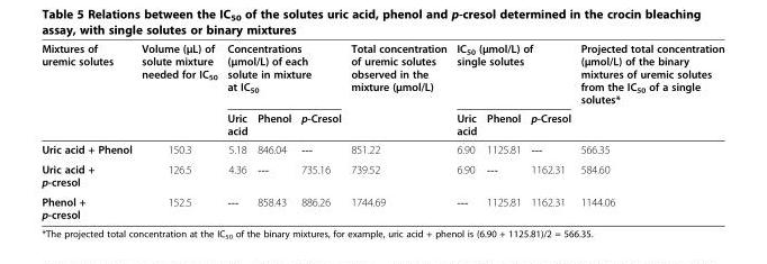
<table><thead><tr><td rowspan="2">Mixtures of uremic solutes</td><td rowspan="2">Volume (μL) of solute mixture needed for IC<sub>50</sub></td><td colspan="3">Concentrations (μmol/L) of each solute in mixture at IC<sub>50</sub></td><td rowspan="2">Total concentration of uremic solutes observed in the mixture (μmol/L)</td><td colspan="3">IC<sub>50</sub> (μmol/L) of single solutes</td><td rowspan="2">Projected total concentration (μmol/L) of the binary mixtures of uremic solutes from the IC<sub>50</sub> of a single solutes*</td></tr><tr><td>Uric acid</td><td>Phenol</td><td>p-Cresol</td><td>Uric acid</td><td>Phenol</td><td>p-Cresol</td></tr></thead><tbody><tr><td>Uric acid + Phenol</td><td>150.3</td><td>5.18</td><td>846.04</td><td>---</td><td>851.22</td><td>6.90</td><td>1125.81</td><td>---</td><td>566.35</td></tr><tr><td>Uric acid + p-cresol</td><td>126.5</td><td>4.36</td><td>---</td><td>735.16</td><td>739.52</td><td>6.90</td><td>---</td><td>1162.31</td><td>584.60</td></tr><tr><td>Phenol + p-cresol</td><td>152.5</td><td>---</td><td>858.43</td><td>886.26</td><td>1744.69</td><td>---</td><td>1125.81</td><td>1162.31</td><td>1144.06</td></tr></tbody></table>